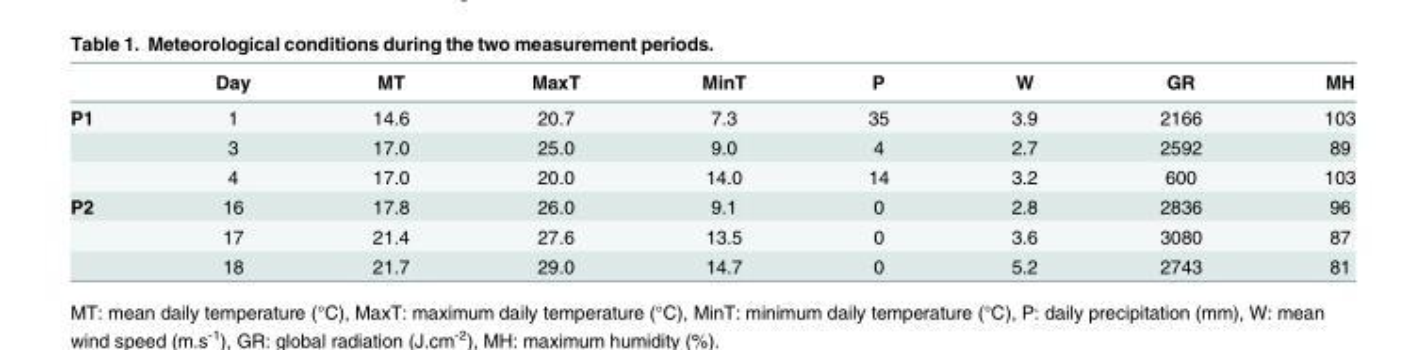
<table><thead><tr><td></td><td>Day</td><td>MT</td><td>MaxT</td><td>MinT</td><td>P</td><td>W</td><td>GR</td><td>MH</td></tr></thead><tbody><tr><td rowspan="3">P1</td><td>1</td><td>14.6</td><td>20.7</td><td>7.3</td><td>35</td><td>3.9</td><td>2166</td><td>103</td></tr><tr><td>3</td><td>17.0</td><td>25.0</td><td>9.0</td><td>4</td><td>2.7</td><td>2592</td><td>89</td></tr><tr><td>4</td><td>17.0</td><td>20.0</td><td>14.0</td><td>14</td><td>3.2</td><td>600</td><td>103</td></tr><tr><td rowspan="3">P2</td><td>16</td><td>17.8</td><td>26.0</td><td>9.1</td><td>0</td><td>2.8</td><td>2836</td><td>96</td></tr><tr><td>17</td><td>21.4</td><td>27.6</td><td>13.5</td><td>0</td><td>3.6</td><td>3080</td><td>87</td></tr><tr><td>18</td><td>21.7</td><td>29.0</td><td>14.7</td><td>0</td><td>5.2</td><td>2743</td><td>81</td></tr></tbody></table>